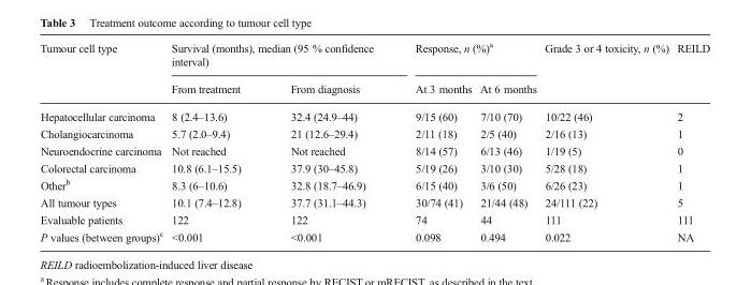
<table><thead><tr><td rowspan="2">Tumour cell type</td><td colspan="2">Survival (months), median (95 % confidence interval)</td><td colspan="2">Response, n (%)<sup>a</sup></td><td rowspan="2">Grade 3 or 4 toxicity, n (%)</td><td rowspan="2">REILD</td></tr><tr><td>From treatment</td><td>From diagnosis</td><td>At 3 months</td><td>At 6 months</td></tr></thead><tbody><tr><td>Hepatocellular carcinoma</td><td>8 (2.4–13.6)</td><td>32.4 (24.9–44)</td><td>9/15 (60)</td><td>7/10 (70)</td><td>10/22 (46)</td><td>2</td></tr><tr><td>Cholangiocarcinoma</td><td>5.7 (2.0–9.4)</td><td>21 (12.6–29.4)</td><td>2/11 (18)</td><td>2/5 (40)</td><td>2/16 (13)</td><td>1</td></tr><tr><td>Neuroendocrine carcinoma</td><td>Not reached</td><td>Not reached</td><td>8/14 (57)</td><td>6/13 (46)</td><td>1/19 (5)</td><td>0</td></tr><tr><td>Colorectal carcinoma</td><td>10.8 (6.1–15.5)</td><td>37.9 (30–45.8)</td><td>5/19 (26)</td><td>3/10 (30)</td><td>5/28 (18)</td><td>1</td></tr><tr><td>Other<sup>b</sup></td><td>8.3 (6–10.6)</td><td>32.8 (18.7–46.9)</td><td>6/15 (40)</td><td>3/6 (50)</td><td>6/26 (23)</td><td>1</td></tr><tr><td>All tumour types</td><td>10.1 (7.4–12.8)</td><td>37.7 (31.1–44.3)</td><td>30/74 (41)</td><td>21/44 (48)</td><td>24/111 (22)</td><td>5</td></tr><tr><td>Evaluable patients</td><td>122</td><td>122</td><td>74</td><td>44</td><td>111</td><td>111</td></tr><tr><td>P values (between groups)<sup>c</sup></td><td>&lt;0.001</td><td>&lt;0.001</td><td>0.098</td><td>0.494</td><td>0.022</td><td>NA</td></tr></tbody></table>